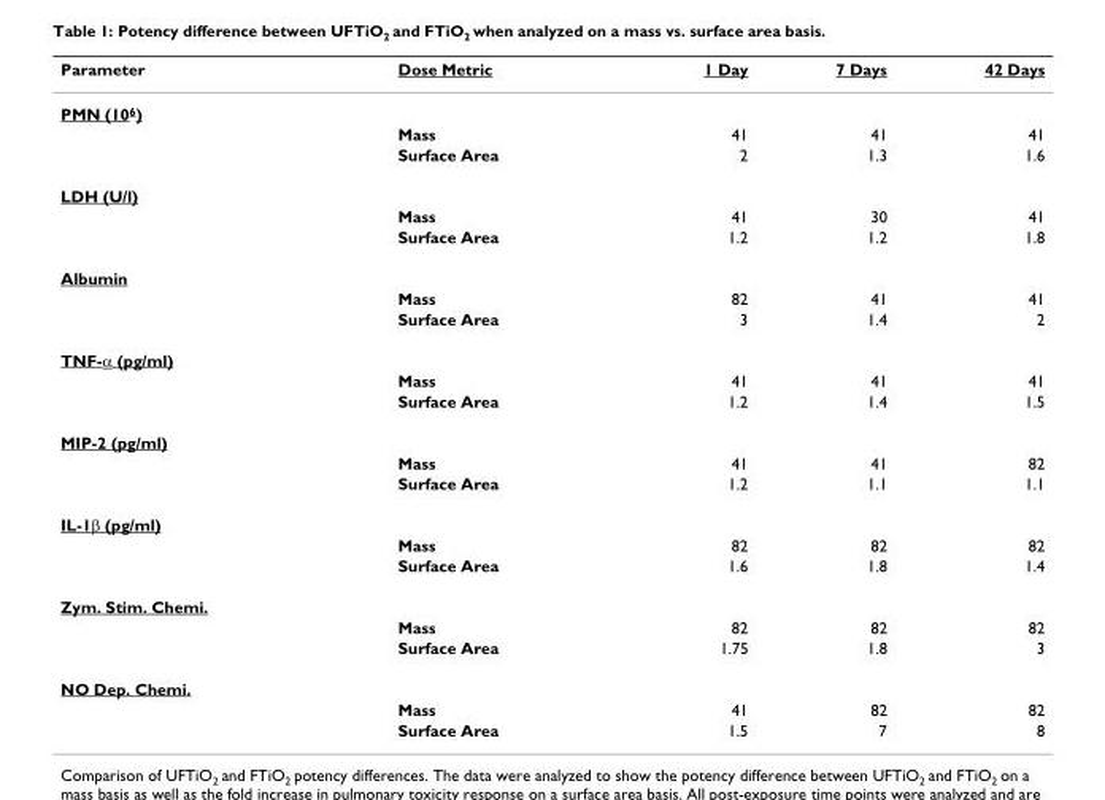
<table><thead><tr><td>Parameter</td><td>Dose Metric</td><td>1 Day</td><td>7 Days</td><td>42 Days</td></tr></thead><tbody><tr><td colspan="5">PMN (10<sup>6</sup>)</td></tr><tr><td></td><td>Mass</td><td>41</td><td>41</td><td>41</td></tr><tr><td></td><td>Surface Area</td><td>2</td><td>1.3</td><td>1.6</td></tr><tr><td colspan="5">LDH (U/l)</td></tr><tr><td></td><td>Mass</td><td>41</td><td>30</td><td>41</td></tr><tr><td></td><td>Surface Area</td><td>1.2</td><td>1.2</td><td>1.8</td></tr><tr><td colspan="5">Albumin</td></tr><tr><td></td><td>Mass</td><td>82</td><td>41</td><td>41</td></tr><tr><td></td><td>Surface Area</td><td>3</td><td>1.4</td><td>2</td></tr><tr><td colspan="5">TNF-α (pg/ml)</td></tr><tr><td></td><td>Mass</td><td>41</td><td>41</td><td>41</td></tr><tr><td></td><td>Surface Area</td><td>1.2</td><td>1.4</td><td>1.5</td></tr><tr><td colspan="5">MIP-2 (pg/ml)</td></tr><tr><td></td><td>Mass</td><td>41</td><td>41</td><td>82</td></tr><tr><td></td><td>Surface Area</td><td>1.2</td><td>1.1</td><td>1.1</td></tr><tr><td colspan="5">IL-1β (pg/ml)</td></tr><tr><td></td><td>Mass</td><td>82</td><td>82</td><td>82</td></tr><tr><td></td><td>Surface Area</td><td>1.6</td><td>1.8</td><td>1.4</td></tr><tr><td colspan="5">Zym. Stim. Chemi.</td></tr><tr><td></td><td>Mass</td><td>82</td><td>82</td><td>82</td></tr><tr><td></td><td>Surface Area</td><td>1.75</td><td>1.8</td><td>3</td></tr><tr><td colspan="5">NO Dep. Chemi.</td></tr><tr><td></td><td>Mass</td><td>41</td><td>82</td><td>82</td></tr><tr><td></td><td>Surface Area</td><td>1.5</td><td>7</td><td>8</td></tr></tbody></table>